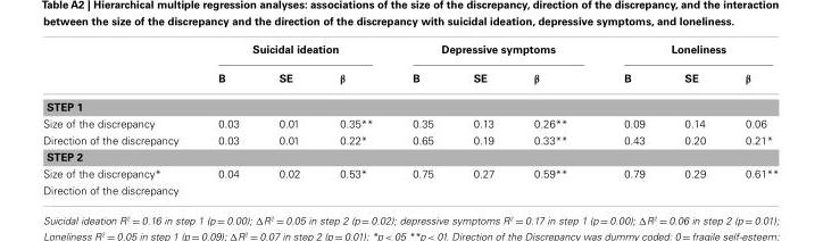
<table><thead><tr><td rowspan="2"></td><td colspan="3">Suicidal ideation</td><td colspan="3">Depressive symptoms</td><td colspan="3">Loneliness</td></tr><tr><td>B</td><td>SE</td><td>β</td><td>B</td><td>SE</td><td>β</td><td>B</td><td>SE</td><td>β</td></tr></thead><tbody><tr><td colspan="10">STEP 1</td></tr><tr><td>Size of the discrepancy</td><td>0.03</td><td>0.01</td><td>0.35**</td><td>0.35</td><td>0.13</td><td>0.26**</td><td>0.09</td><td>0.14</td><td>0.06</td></tr><tr><td>Direction of the discrepancy</td><td>0.03</td><td>0.01</td><td>0.22*</td><td>0.65</td><td>0.19</td><td>0.33**</td><td>0.43</td><td>0.20</td><td>0.21*</td></tr><tr><td colspan="10">STEP 2</td></tr><tr><td>Size of the discrepancy*</td><td>0.04</td><td>0.02</td><td>0.53*</td><td>0.75</td><td>0.27</td><td>0.59**</td><td>0.79</td><td>0.29</td><td>0.61**</td></tr><tr><td>Direction of the discrepancy</td><td></td><td></td><td></td><td></td><td></td><td></td><td></td><td></td><td></td></tr></tbody></table>